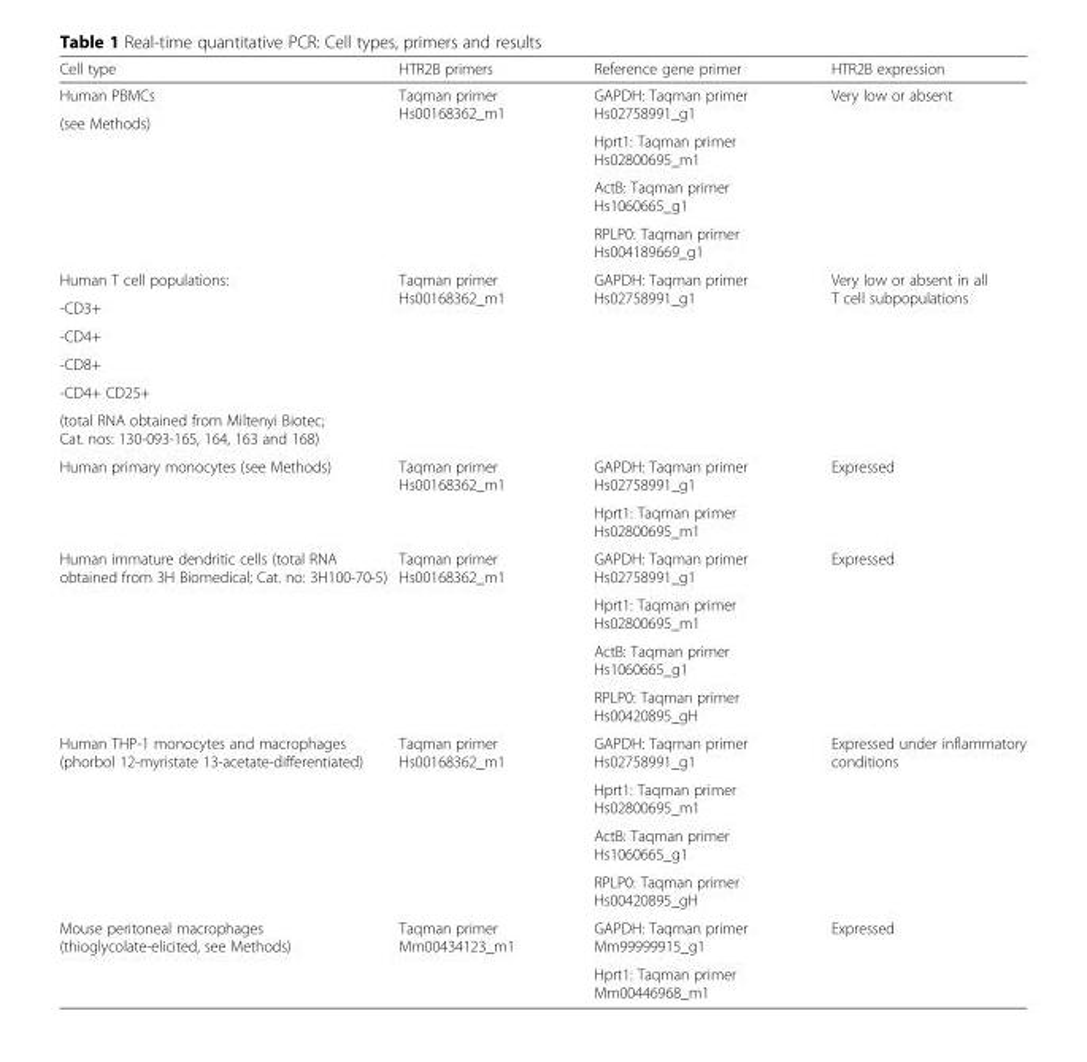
<table><thead><tr><td>Cell type</td><td>HTR2B primers</td><td>Reference gene primer</td><td>HTR2B expression</td></tr></thead><tbody><tr><td>Human PBMCs</td><td rowspan="5">Taqman primer Hs00168362_m1</td><td rowspan="2">GAPDH: Taqman primer Hs02758991_g1</td><td rowspan="5">Very low or absent</td></tr><tr><td rowspan="4">(see Methods)</td></tr><tr><td>Hprt1: Taqman primer Hs02800695_m1</td></tr><tr><td>ActB: Taqman primer Hs1060665_g1</td></tr><tr><td>RPLP0: Taqman primer Hs004189669_g1</td></tr><tr><td>Human T cell populations:</td><td rowspan="6">Taqman primer Hs00168362_m1</td><td rowspan="6">GAPDH: Taqman primer Hs02758991_g1</td><td rowspan="6">Very low or absent in all T cell subpopulations</td></tr><tr><td>-CD3+</td></tr><tr><td>-CD4+</td></tr><tr><td>-CD8+</td></tr><tr><td>-CD4+ CD25+</td></tr><tr><td>(total RNA obtained from Miltenyi Biotec; Cat. nos: 130-093-165, 164, 163 and 168)</td></tr><tr><td rowspan="2">Human primary monocytes (see Methods)</td><td rowspan="2">Taqman primer Hs00168362_m1</td><td>GAPDH: Taqman primer Hs02758991_g1</td><td rowspan="2">Expressed</td></tr><tr><td>Hprt1: Taqman primer Hs02800695_m1</td></tr><tr><td rowspan="4">Human immature dendritic cells (total RNA obtained from 3H Biomedical; Cat. no: 3H100-70-5)</td><td rowspan="4">Taqman primer Hs00168362_m1</td><td>GAPDH: Taqman primer Hs02758991_g1</td><td rowspan="4">Expressed</td></tr><tr><td>Hprt1: Taqman primer Hs02800695_m1</td></tr><tr><td>ActB: Taqman primer Hs1060665_g1</td></tr><tr><td>RPLP0: Taqman primer Hs00420895_gH</td></tr><tr><td rowspan="4">Human THP-1 monocytes and macrophages (phorbol 12-myristate 13-acetate-differentiated)</td><td rowspan="4">Taqman primer Hs00168362_m1</td><td>GAPDH: Taqman primer Hs02758991_g1</td><td rowspan="4">Expressed under inflammatory conditions</td></tr><tr><td>Hprt1: Taqman primer Hs02800695_m1</td></tr><tr><td>ActB: Taqman primer Hs1060665_g1</td></tr><tr><td>RPLP0: Taqman primer Hs00420895_gH</td></tr><tr><td rowspan="2">Mouse peritoneal macrophages (thioglycolate-elicited, see Methods)</td><td rowspan="2">Taqman primer Mm00434123_m1</td><td>GAPDH: Taqman primer Mm99999915_g1</td><td rowspan="2">Expressed</td></tr><tr><td>Hprt1: Taqman primer Mm00446968_m1</td></tr></tbody></table>